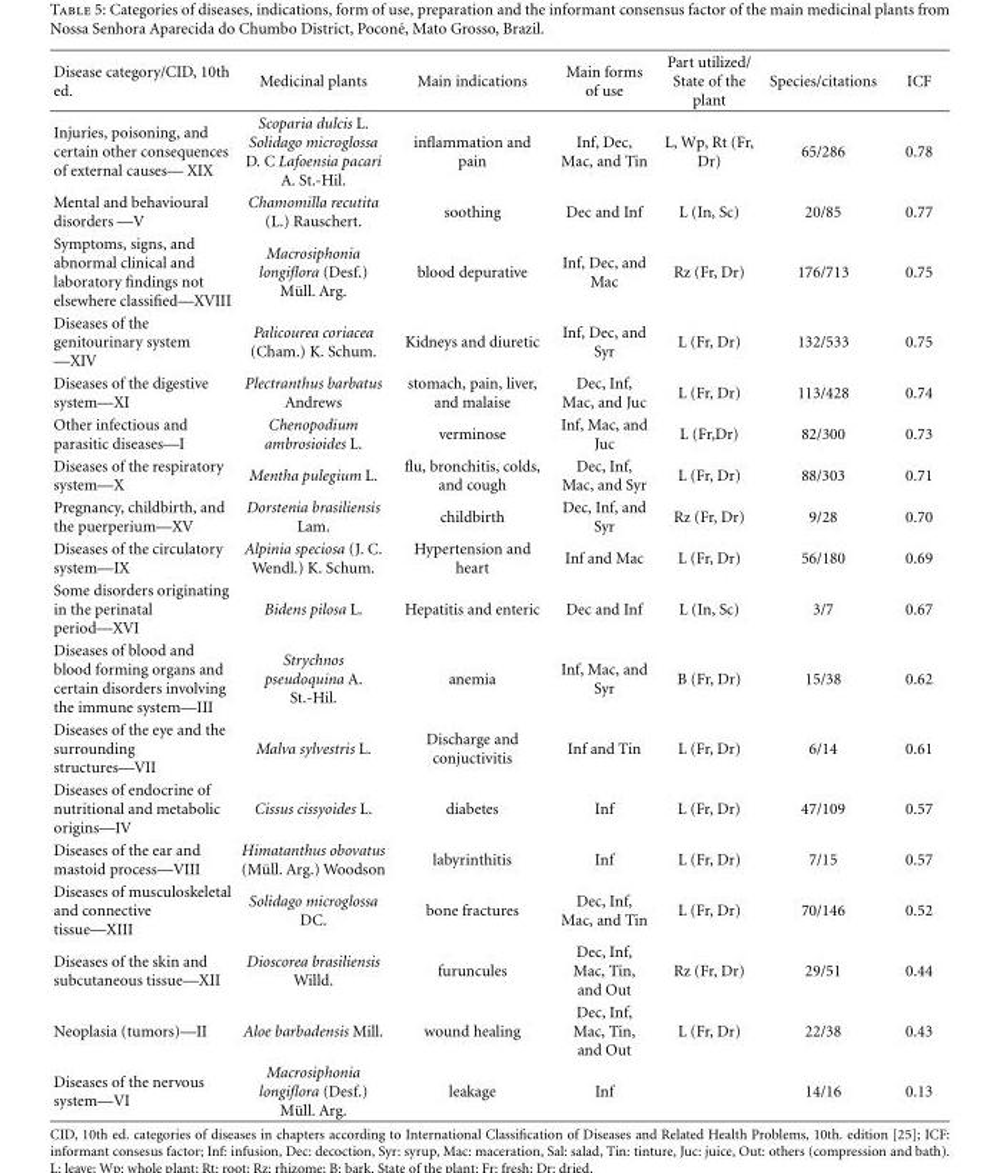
<table><thead><tr><td>Disease category/CID, 10th ed.</td><td>Medicinal plants</td><td>Main indications</td><td>Main forms of use</td><td>Part utilized/ State of the plant</td><td>Species/citations</td><td>ICF</td></tr></thead><tbody><tr><td>Injuries, poisoning, and certain other consequences of external causes— XIX</td><td>Scoparia dulcis L. Solidago microglossa D. C Lafoensia pacari A. St.-Hil.</td><td>inflammation and pain</td><td>Inf, Dec, Mac, and Tin</td><td>L, Wp, Rt (Fr, Dr)</td><td>65/286</td><td>0.78</td></tr><tr><td>Mental and behavioural disorders —V</td><td>Chamomilla recutita (L.) Rauschert.</td><td>soothing</td><td>Dec and Inf</td><td>L (In, Sc)</td><td>20/85</td><td>0.77</td></tr><tr><td>Symptoms, signs, and abnormal clinical and laboratory findings not elsewhere classified—XVIII</td><td>Macrosiphonia longiflora (Desf.) M¨ull. Arg.</td><td>blood depurative</td><td>Inf, Dec, and Mac</td><td>Rz (Fr, Dr)</td><td>176/713</td><td>0.75</td></tr><tr><td>Diseases of the genitourinary system —XIV</td><td>Palicourea coriacea (Cham.) K. Schum.</td><td>Kidneys and diuretic</td><td>Inf, Dec, and Syr</td><td>L (Fr, Dr)</td><td>132/533</td><td>0.75</td></tr><tr><td>Diseases of the digestive system—XI</td><td>Plectranthus barbatus Andrews</td><td>stomach, pain, liver, and malaise</td><td>Dec, Inf, Mac, and Juc</td><td>L (Fr, Dr)</td><td>113/428</td><td>0.74</td></tr><tr><td>Other infectious and parasitic diseases—I</td><td>Chenopodium ambrosioides L.</td><td>verminose</td><td>Inf, Mac, and Juc</td><td>L (Fr,Dr)</td><td>82/300</td><td>0.73</td></tr><tr><td>Diseases of the respiratory system—X</td><td>Mentha pulegium L.</td><td>flu, bronchitis, colds, and cough</td><td>Dec, Inf, Mac, and Syr</td><td>L (Fr, Dr)</td><td>88/303</td><td>0.71</td></tr><tr><td>Pregnancy, childbirth, and the puerperium—XV</td><td>Dorstenia brasiliensis Lam.</td><td>childbirth</td><td>Dec, Inf, and Syr</td><td>Rz (Fr, Dr)</td><td>9/28</td><td>0.70</td></tr><tr><td>Diseases of the circulatory system—IX</td><td>Alpinia speciosa (J. C. Wendl.) K. Schum.</td><td>Hypertension and heart</td><td>Inf and Mac</td><td>L (Fr, Dr)</td><td>56/180</td><td>0.69</td></tr><tr><td>Some disorders originating in the perinatal period—XVI</td><td>Bidens pilosa L.</td><td>Hepatitis and enteric</td><td>Dec and Inf</td><td>L (In, Sc)</td><td>3/7</td><td>0.67</td></tr><tr><td>Diseases of blood and blood forming organs and certain disorders involving the immune system—III</td><td>Strychnos pseudoquina A. St.-Hil.</td><td>anemia</td><td>Inf, Mac, and Syr</td><td>B (Fr, Dr)</td><td>15/38</td><td>0.62</td></tr><tr><td>Diseases of the eye and the surrounding structures—VII</td><td>Malva sylvestris L.</td><td>Discharge and conjuctivitis</td><td>Inf and Tin</td><td>L (Fr, Dr)</td><td>6/14</td><td>0.61</td></tr><tr><td>Diseases of endocrine of nutritional and metabolic origins—IV</td><td>Cissus cissyoides L.</td><td>diabetes</td><td>Inf</td><td>L (Fr, Dr)</td><td>47/109</td><td>0.57</td></tr><tr><td>Diseases of the ear and mastoid process—VIII</td><td>Himatanthus obovatus (M¨ull. Arg.) Woodson</td><td>labyrinthitis</td><td>Inf</td><td>L (Fr, Dr)</td><td>7/15</td><td>0.57</td></tr><tr><td>Diseases of musculoskeletal and connective tissue—XIII</td><td>Solidago microglossa DC.</td><td>bone fractures</td><td>Dec, Inf, Mac, and Tin</td><td>L (Fr, Dr)</td><td>70/146</td><td>0.52</td></tr><tr><td>Diseases of the skin and subcutaneous tissue—XII</td><td>Dioscorea brasiliensis Willd.</td><td>furuncules</td><td>Dec, Inf, Mac, Tin, and Out</td><td>Rz (Fr, Dr)</td><td>29/51</td><td>0.44</td></tr><tr><td>Neoplasia (tumors)—II</td><td>Aloe barbadensis Mill.</td><td>wound healing</td><td>Dec, Inf, Mac, Tin, and Out</td><td>L (Fr, Dr)</td><td>22/38</td><td>0.43</td></tr><tr><td>Diseases of the nervous system—VI</td><td>Macrosiphonia longiflora (Desf.) M¨ull. Arg.</td><td>leakage</td><td>Inf</td><td></td><td>14/16</td><td>0.13</td></tr></tbody></table>